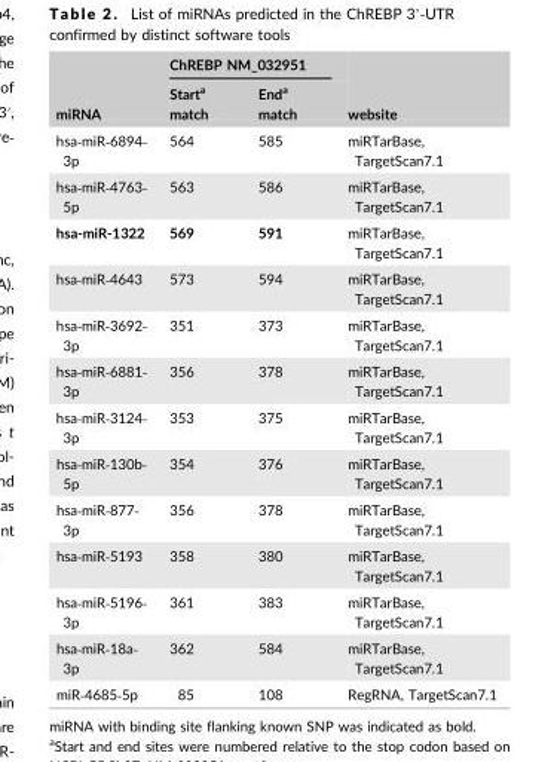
<table><thead><tr><td rowspan="2">miRNA</td><td colspan="2">ChREBP NM_032951</td><td rowspan="2">website</td></tr><tr><td>Start<sup>a</sup> match</td><td>End<sup>a</sup> match</td></tr></thead><tbody><tr><td>hsa‐miR‐6894‐ 3p</td><td>564</td><td>585</td><td>miRTarBase, TargetScan7.1</td></tr><tr><td>hsa‐miR‐4763‐ 5p</td><td>563</td><td>586</td><td>miRTarBase, TargetScan7.1</td></tr><tr><td>hsa-miR-1322</td><td>569</td><td>591</td><td>miRTarBase, TargetScan7.1</td></tr><tr><td>hsa‐miR‐4643</td><td>573</td><td>594</td><td>miRTarBase, TargetScan7.1</td></tr><tr><td>hsa‐miR‐3692‐ 3p</td><td>351</td><td>373</td><td>miRTarBase, TargetScan7.1</td></tr><tr><td>hsa‐miR‐6881‐ 3p</td><td>356</td><td>378</td><td>miRTarBase, TargetScan7.1</td></tr><tr><td>hsa‐miR‐3124‐ 3p</td><td>353</td><td>375</td><td>miRTarBase, TargetScan7.1</td></tr><tr><td>hsa‐miR‐130b‐ 5p</td><td>354</td><td>376</td><td>miRTarBase, TargetScan7.1</td></tr><tr><td>hsa‐miR‐877‐ 3p</td><td>356</td><td>378</td><td>miRTarBase, TargetScan7.1</td></tr><tr><td>hsa‐miR‐5193</td><td>358</td><td>380</td><td>miRTarBase, TargetScan7.1</td></tr><tr><td>hsa‐miR‐5196‐ 3p</td><td>361</td><td>383</td><td>miRTarBase, TargetScan7.1</td></tr><tr><td>hsa‐miR‐18a‐ 3p</td><td>362</td><td>584</td><td>miRTarBase, TargetScan7.1</td></tr><tr><td>miR‐4685‐5p</td><td>85</td><td>108</td><td>RegRNA, TargetScan7.1</td></tr></tbody></table>